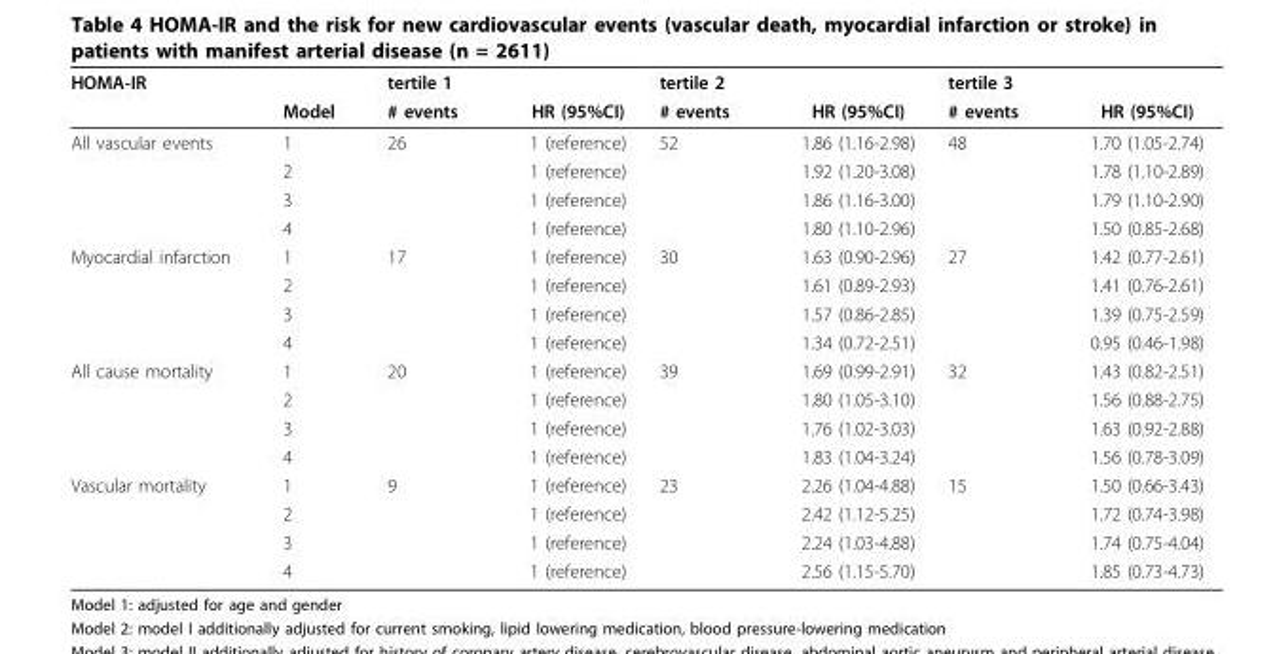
<table><thead><tr><td rowspan="2">HOMA-IR</td><td rowspan="2">Model</td><td colspan="2">tertile 1</td><td colspan="2">tertile 2</td><td colspan="2">tertile 3</td></tr><tr><td># events</td><td>HR (95%CI)</td><td># events</td><td>HR (95%CI)</td><td># events</td><td>HR (95%CI)</td></tr></thead><tbody><tr><td rowspan="4">All vascular events</td><td>1</td><td>26</td><td>1 (reference)</td><td>52</td><td>1.86 (1.16-2.98)</td><td>48</td><td>1.70 (1.05-2.74)</td></tr><tr><td>2</td><td></td><td>1 (reference)</td><td></td><td>1.92 (1.20-3.08)</td><td></td><td>1.78 (1.10-2.89)</td></tr><tr><td>3</td><td></td><td>1 (reference)</td><td></td><td>1.86 (1.16-3.00)</td><td></td><td>1.79 (1.10-2.90)</td></tr><tr><td>4</td><td></td><td>1 (reference)</td><td></td><td>1.80 (1.10-2.96)</td><td></td><td>1.50 (0.85-2.68)</td></tr><tr><td rowspan="4">Myocardial infarction</td><td>1</td><td>17</td><td>1 (reference)</td><td>30</td><td>1.63 (0.90-2.96)</td><td>27</td><td>1.42 (0.77-2.61)</td></tr><tr><td>2</td><td></td><td>1 (reference)</td><td></td><td>1.61 (0.89-2.93)</td><td></td><td>1.41 (0.76-2.61)</td></tr><tr><td>3</td><td></td><td>1 (reference)</td><td></td><td>1.57 (0.86-2.85)</td><td></td><td>1.39 (0.75-2.59)</td></tr><tr><td>4</td><td></td><td>1 (reference)</td><td></td><td>1.34 (0.72-2.51)</td><td></td><td>0.95 (0.46-1.98)</td></tr><tr><td rowspan="4">All cause mortality</td><td>1</td><td>20</td><td>1 (reference)</td><td>39</td><td>1.69 (0.99-2.91)</td><td>32</td><td>1.43 (0.82-2.51)</td></tr><tr><td>2</td><td></td><td>1 (reference)</td><td></td><td>1.80 (1.05-3.10)</td><td></td><td>1.56 (0.88-2.75)</td></tr><tr><td>3</td><td></td><td>1 (reference)</td><td></td><td>1.76 (1.02-3.03)</td><td></td><td>1.63 (0.92-2.88)</td></tr><tr><td>4</td><td></td><td>1 (reference)</td><td></td><td>1.83 (1.04-3.24)</td><td></td><td>1.56 (0.78-3.09)</td></tr><tr><td rowspan="4">Vascular mortality</td><td>1</td><td>9</td><td>1 (reference)</td><td>23</td><td>2.26 (1.04-4.88)</td><td>15</td><td>1.50 (0.66-3.43)</td></tr><tr><td>2</td><td></td><td>1 (reference)</td><td></td><td>2.42 (1.12-5.25)</td><td></td><td>1.72 (0.74-3.98)</td></tr><tr><td>3</td><td></td><td>1 (reference)</td><td></td><td>2.24 (1.03-4.88)</td><td></td><td>1.74 (0.75-4.04)</td></tr><tr><td>4</td><td></td><td>1 (reference)</td><td></td><td>2.56 (1.15-5.70)</td><td></td><td>1.85 (0.73-4.73)</td></tr></tbody></table>